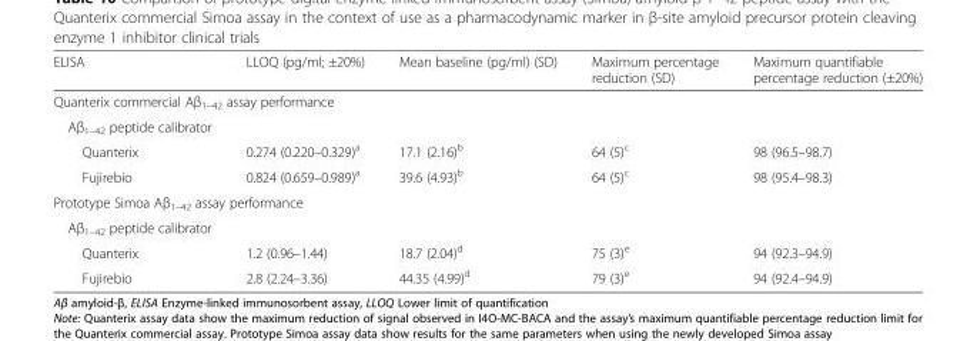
<table><thead><tr><td>ELISA</td><td>LLOQ (pg/ml; ±20%)</td><td>Mean baseline (pg/ml) (SD)</td><td>Maximum percentage reduction (SD)</td><td>Maximum quantifiable percentage reduction (±20%)</td></tr></thead><tbody><tr><td colspan="5">Quanterix commercial Aβ<sub>1–42</sub> assay performance</td></tr><tr><td colspan="5">Aβ<sub>1–42</sub> peptide calibrator</td></tr><tr><td>Quanterix</td><td>0.274 (0.220–0.329)<sup>a</sup></td><td>17.1 (2.16)<sup>b</sup></td><td>64 (5)<sup>c</sup></td><td>98 (96.5–98.7)</td></tr><tr><td>Fujirebio</td><td>0.824 (0.659–0.989)<sup>a</sup></td><td>39.6 (4.93)<sup>b</sup></td><td>64 (5)<sup>c</sup></td><td>98 (95.4–98.3)</td></tr><tr><td colspan="5">Prototype Simoa Aβ<sub>1–42</sub> assay performance</td></tr><tr><td colspan="5">Aβ<sub>1–42</sub> peptide calibrator</td></tr><tr><td>Quanterix</td><td>1.2 (0.96–1.44)</td><td>18.7 (2.04)<sup>d</sup></td><td>75 (3)<sup>e</sup></td><td>94 (92.3–94.9)</td></tr><tr><td>Fujirebio</td><td>2.8 (2.24–3.36)</td><td>44.35 (4.99)<sup>d</sup></td><td>79 (3)<sup>e</sup></td><td>94 (92.4–94.9)</td></tr></tbody></table>